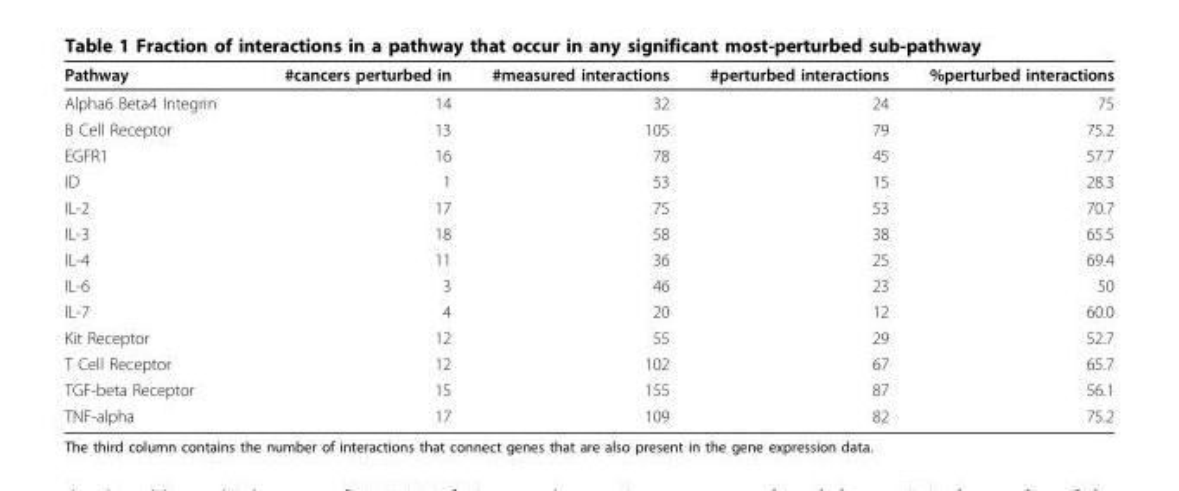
<table><thead><tr><td>Pathway</td><td>#cancers perturbed in</td><td>#measured interactions</td><td>#perturbed interactions</td><td>%perturbed interactions</td></tr></thead><tbody><tr><td>Alpha6 Beta4 Integrin</td><td>14</td><td>32</td><td>24</td><td>75</td></tr><tr><td>B Cell Receptor</td><td>13</td><td>105</td><td>79</td><td>75.2</td></tr><tr><td>EGFR1</td><td>16</td><td>78</td><td>45</td><td>57.7</td></tr><tr><td>ID</td><td>1</td><td>53</td><td>15</td><td>28.3</td></tr><tr><td>IL-2</td><td>17</td><td>75</td><td>53</td><td>70.7</td></tr><tr><td>IL-3</td><td>18</td><td>58</td><td>38</td><td>65.5</td></tr><tr><td>IL-4</td><td>11</td><td>36</td><td>25</td><td>69.4</td></tr><tr><td>IL-6</td><td>3</td><td>46</td><td>23</td><td>50</td></tr><tr><td>IL-7</td><td>4</td><td>20</td><td>12</td><td>60.0</td></tr><tr><td>Kit Receptor</td><td>12</td><td>55</td><td>29</td><td>52.7</td></tr><tr><td>T Cell Receptor</td><td>12</td><td>102</td><td>67</td><td>65.7</td></tr><tr><td>TGF-beta Receptor</td><td>15</td><td>155</td><td>87</td><td>56.1</td></tr><tr><td>TNF-alpha</td><td>17</td><td>109</td><td>82</td><td>75.2</td></tr></tbody></table>